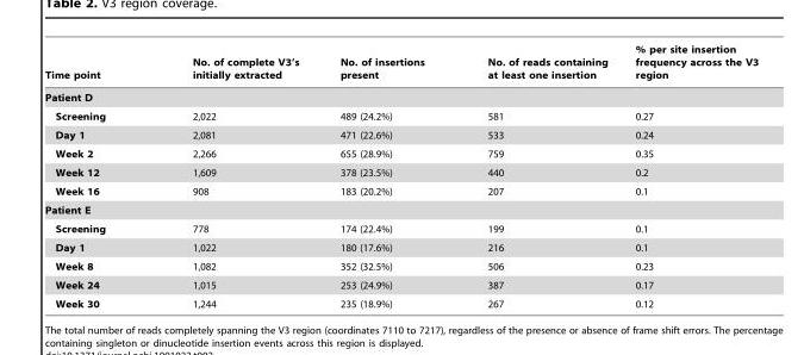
<table><thead><tr><td>Time point</td><td>No. of complete V3’s initially extracted</td><td>No. of insertions present</td><td>No. of reads containing at least one insertion</td><td>% per site insertion frequency across the V3 region</td></tr></thead><tbody><tr><td colspan="5">Patient D</td></tr><tr><td>Screening</td><td>2,022</td><td>489 (24.2%)</td><td>581</td><td>0.27</td></tr><tr><td>Day 1</td><td>2,081</td><td>471 (22.6%)</td><td>533</td><td>0.24</td></tr><tr><td>Week 2</td><td>2,266</td><td>655 (28.9%)</td><td>759</td><td>0.35</td></tr><tr><td>Week 12</td><td>1,609</td><td>378 (23.5%)</td><td>440</td><td>0.2</td></tr><tr><td>Week 16</td><td>908</td><td>183 (20.2%)</td><td>207</td><td>0.1</td></tr><tr><td colspan="5">Patient E</td></tr><tr><td>Screening</td><td>778</td><td>174 (22.4%)</td><td>199</td><td>0.1</td></tr><tr><td>Day 1</td><td>1,022</td><td>180 (17.6%)</td><td>216</td><td>0.1</td></tr><tr><td>Week 8</td><td>1,082</td><td>352 (32.5%)</td><td>506</td><td>0.23</td></tr><tr><td>Week 24</td><td>1,015</td><td>253 (24.9%)</td><td>387</td><td>0.17</td></tr><tr><td>Week 30</td><td>1,244</td><td>235 (18.9%)</td><td>267</td><td>0.12</td></tr></tbody></table>